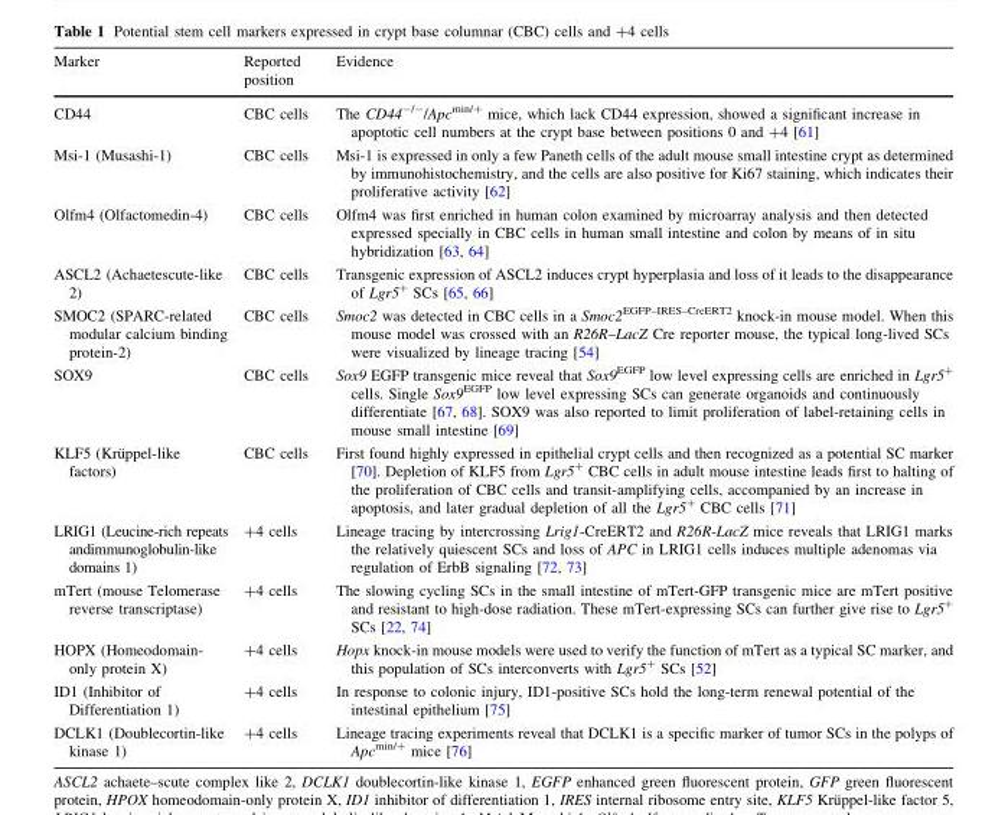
<table><thead><tr><td>Marker</td><td>Reported position</td><td>Evidence</td></tr></thead><tbody><tr><td>CD44</td><td>CBC cells</td><td>The CD44<sup>-/-</sup>/Apc<sup>min/+</sup> mice, which lack CD44 expression, showed a significant increase in apoptotic cell numbers at the crypt base between positions 0 and +4 [61]</td></tr><tr><td>Msi-1 (Musashi-1)</td><td>CBC cells</td><td>Msi-1 is expressed in only a few Paneth cells of the adult mouse small intestine crypt as determined by immunohistochemistry, and the cells are also positive for Ki67 staining, which indicates their proliferative activity [62]</td></tr><tr><td>Olfm4 (Olfactomedin-4)</td><td>CBC cells</td><td>Olfm4 was first enriched in human colon examined by microarray analysis and then detected expressed specially in CBC cells in human small intestine and colon by means of in situ hybridization [63, 64]</td></tr><tr><td>ASCL2 (Achaetescute-like 2)</td><td>CBC cells</td><td>Transgenic expression of ASCL2 induces crypt hyperplasia and loss of it leads to the disappearance of Lgr5<sup>+</sup> SCs [65, 66]</td></tr><tr><td>SMOC2 (SPARC-related modular calcium binding protein-2)</td><td>CBC cells</td><td>Smoc2 was detected in CBC cells in a Smoc2<sup>EGFP–IRES–CreERT2</sup> knock-in mouse model. When this mouse model was crossed with an R26R–LacZ Cre reporter mouse, the typical long-lived SCs were visualized by lineage tracing [54]</td></tr><tr><td>SOX9</td><td>CBC cells</td><td>Sox9 EGFP transgenic mice reveal that Sox9<sup>EGFP</sup> low level expressing cells are enriched in Lgr5<sup>+</sup> cells. Single Sox9<sup>EGFP</sup> low level expressing SCs can generate organoids and continuously differentiate [67, 68]. SOX9 was also reported to limit proliferation of label-retaining cells in mouse small intestine [69]</td></tr><tr><td>KLF5 (Kru¨ppel-like factors)</td><td>CBC cells</td><td>First found highly expressed in epithelial crypt cells and then recognized as a potential SC marker [70]. Depletion of KLF5 from Lgr5<sup>+</sup> CBC cells in adult mouse intestine leads first to halting of the proliferation of CBC cells and transit-amplifying cells, accompanied by an increase in apoptosis, and later gradual depletion of all the Lgr5<sup>+</sup> CBC cells [71]</td></tr><tr><td>LRIG1 (Leucine-rich repeats andimmunoglobulin-like domains 1)</td><td>+4 cells</td><td>Lineage tracing by intercrossing Lrig1-CreERT2 and R26R-LacZ mice reveals that LRIG1 marks the relatively quiescent SCs and loss of APC in LRIG1 cells induces multiple adenomas via regulation of ErbB signaling [72, 73]</td></tr><tr><td>mTert (mouse Telomerase reverse transcriptase)</td><td>+4 cells</td><td>The slowing cycling SCs in the small intestine of mTert-GFP transgenic mice are mTert positive and resistant to high-dose radiation. These mTert-expressing SCs can further give rise to Lgr5<sup>+</sup> SCs [22, 74]</td></tr><tr><td>HOPX (Homeodomain- only protein X)</td><td>+4 cells</td><td>Hopx knock-in mouse models were used to verify the function of mTert as a typical SC marker, and this population of SCs interconverts with Lgr5<sup>+</sup> SCs [52]</td></tr><tr><td>ID1 (Inhibitor of Differentiation 1)</td><td>+4 cells</td><td>In response to colonic injury, ID1-positive SCs hold the long-term renewal potential of the intestinal epithelium [75]</td></tr><tr><td>DCLK1 (Doublecortin-like kinase 1)</td><td>+4 cells</td><td>Lineage tracing experiments reveal that DCLK1 is a specific marker of tumor SCs in the polyps of Apc<sup>min/+</sup> mice [76]</td></tr></tbody></table>